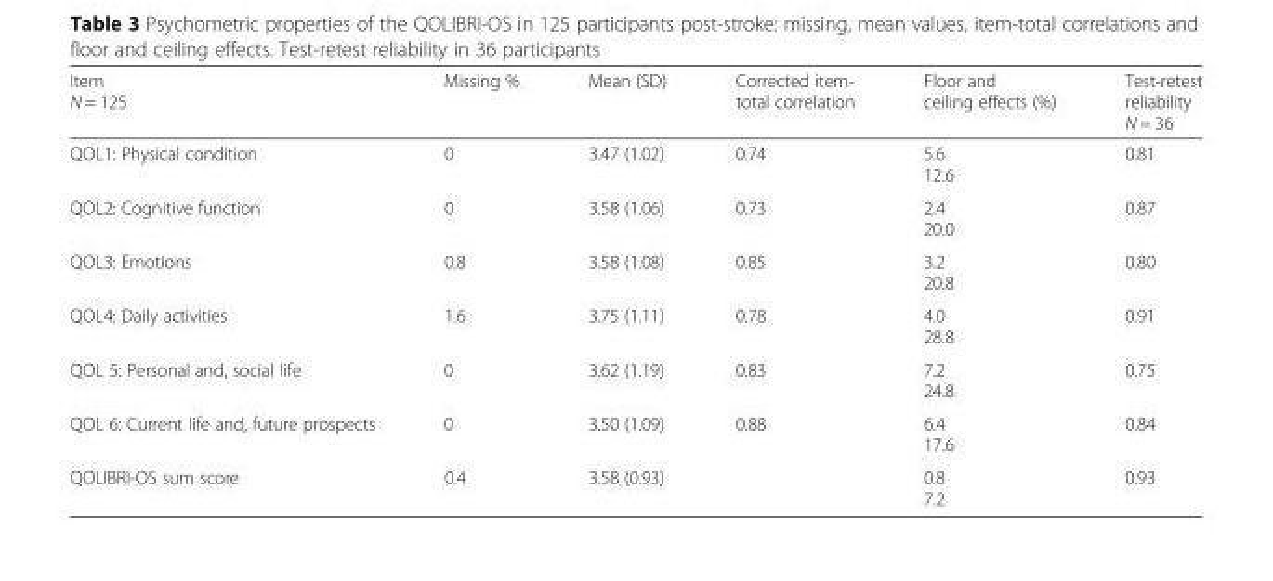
<table><thead><tr><td>Item N = 125</td><td>Missing %</td><td>Mean (SD)</td><td>Corrected item- total correlation</td><td>Floor and ceiling effects (%)</td><td>Test-retest reliability N = 36</td></tr></thead><tbody><tr><td>QOL1: Physical condition</td><td>0</td><td>3.47 (1.02)</td><td>0.74</td><td>5.6 12.6</td><td>0.81</td></tr><tr><td>QOL2: Cognitive function</td><td>0</td><td>3.58 (1.06)</td><td>0.73</td><td>2.4 20.0</td><td>0.87</td></tr><tr><td>QOL3: Emotions</td><td>0.8</td><td>3.58 (1.08)</td><td>0.85</td><td>3.2 20.8</td><td>0.80</td></tr><tr><td>QOL4: Daily activities</td><td>1.6</td><td>3.75 (1.11)</td><td>0.78</td><td>4.0 28.8</td><td>0.91</td></tr><tr><td>QOL 5: Personal and, social life</td><td>0</td><td>3.62 (1.19)</td><td>0.83</td><td>7.2 24.8</td><td>0.75</td></tr><tr><td>QOL 6: Current life and, future prospects</td><td>0</td><td>3.50 (1.09)</td><td>0.88</td><td>6.4 17.6</td><td>0.84</td></tr><tr><td>QOLIBRI-OS sum score</td><td>0.4</td><td>3.58 (0.93)</td><td></td><td>0.8 7.2</td><td>0.93</td></tr></tbody></table>